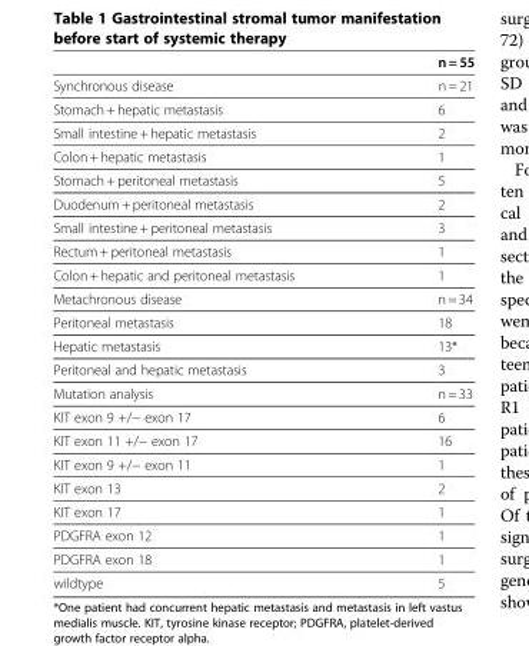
<table><thead><tr><td></td><td>n = 55</td></tr></thead><tbody><tr><td>Synchronous disease</td><td>n = 21</td></tr><tr><td>Stomach + hepatic metastasis</td><td>6</td></tr><tr><td>Small intestine + hepatic metastasis</td><td>2</td></tr><tr><td>Colon + hepatic metastasis</td><td>1</td></tr><tr><td>Stomach + peritoneal metastasis</td><td>5</td></tr><tr><td>Duodenum + peritoneal metastasis</td><td>2</td></tr><tr><td>Small intestine + peritoneal metastasis</td><td>3</td></tr><tr><td>Rectum + peritoneal metastasis</td><td>1</td></tr><tr><td>Colon + hepatic and peritoneal metastasis</td><td>1</td></tr><tr><td>Metachronous disease</td><td>n = 34</td></tr><tr><td>Peritoneal metastasis</td><td>18</td></tr><tr><td>Hepatic metastasis</td><td>13*</td></tr><tr><td>Peritoneal and hepatic metastasis</td><td>3</td></tr><tr><td>Mutation analysis</td><td>n = 33</td></tr><tr><td>KIT exon 9 +/− exon 17</td><td>6</td></tr><tr><td>KIT exon 11 +/− exon 17</td><td>16</td></tr><tr><td>KIT exon 9 +/− exon 11</td><td>1</td></tr><tr><td>KIT exon 13</td><td>2</td></tr><tr><td>KIT exon 17</td><td>1</td></tr><tr><td>PDGFRA exon 12</td><td>1</td></tr><tr><td>PDGFRA exon 18</td><td>1</td></tr><tr><td>wildtype</td><td>5</td></tr></tbody></table>